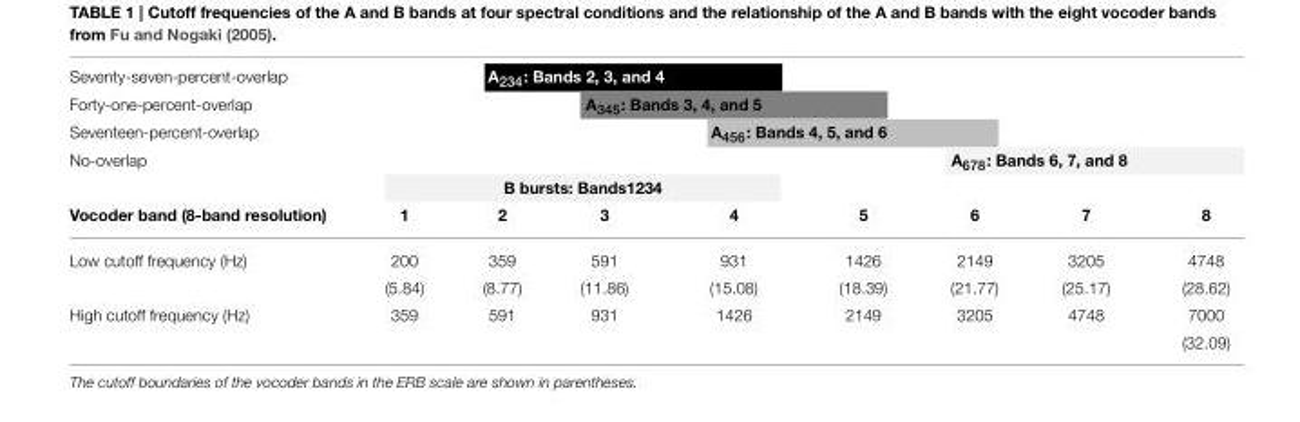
<table><thead><tr><td rowspan="6">Seventy-seven-percent-overlap Forty-one-percent-overlap Seventeen-percent-overlap No-overlap Vocoder band (8-band resolution)</td><td rowspan="4"></td><td colspan="3">A<sub>234</sub>: Bands 2, 3, and 4</td><td></td><td rowspan="2"></td><td rowspan="3"></td><td rowspan="3"></td></tr><tr><td rowspan="3"></td><td colspan="3">A<sub>345</sub>: Bands 3, 4, and 5</td></tr><tr><td rowspan="2"></td><td colspan="3">A<sub>456</sub>: Bands 4, 5, and 6</td></tr><tr><td></td><td rowspan="3">5</td><td colspan="3">A<sub>678</sub>: Bands 6, 7, and 8</td></tr><tr><td colspan="4">B bursts: Bands1234</td><td rowspan="2">6</td><td rowspan="2">7</td><td rowspan="2">8</td></tr><tr><td>1</td><td>2</td><td>3</td><td>4</td></tr></thead><tbody><tr><td rowspan="2">Low cutoff frequency (Hz)</td><td>200</td><td>359</td><td>591</td><td>931</td><td>1426</td><td>2149</td><td>3205</td><td>4748</td></tr><tr><td>(5.84)</td><td>(8.77)</td><td>(11.86)</td><td>(15.08)</td><td>(18.39)</td><td>(21.77)</td><td>(25.17)</td><td>(28.62)</td></tr><tr><td rowspan="2">High cutoff frequency (Hz)</td><td>359</td><td>591</td><td>931</td><td>1426</td><td>2149</td><td>3205</td><td>4748</td><td>7000</td></tr><tr><td></td><td></td><td></td><td></td><td></td><td></td><td></td><td>(32.09)</td></tr></tbody></table>